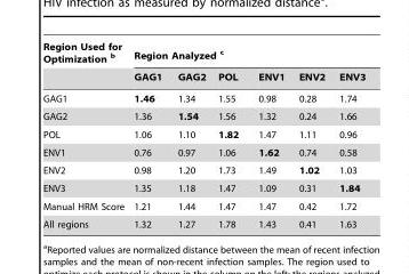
<table><thead><tr><td rowspan="2">Region Used for Optimization b</td><td colspan="6">Region Analyzed c</td></tr><tr><td>GAG1</td><td>GAG2</td><td>POL</td><td>ENV1</td><td>ENV2</td><td>ENV3</td></tr></thead><tbody><tr><td>GAG1</td><td>1.46</td><td>1.34</td><td>1.55</td><td>0.98</td><td>0.28</td><td>1.74</td></tr><tr><td>GAG2</td><td>1.36</td><td>1.54</td><td>1.56</td><td>1.32</td><td>0.24</td><td>1.66</td></tr><tr><td>POL</td><td>1.06</td><td>1.10</td><td>1.82</td><td>1.47</td><td>1.11</td><td>0.96</td></tr><tr><td>ENV1</td><td>0.76</td><td>0.97</td><td>1.06</td><td>1.62</td><td>0.74</td><td>0.58</td></tr><tr><td>ENV2</td><td>0.98</td><td>1.20</td><td>1.73</td><td>1.49</td><td>1.02</td><td>1.03</td></tr><tr><td>ENV3</td><td>1.35</td><td>1.18</td><td>1.47</td><td>1.09</td><td>0.31</td><td>1.84</td></tr><tr><td>Manual HRM Score</td><td>1.21</td><td>1.44</td><td>1.47</td><td>1.47</td><td>0.42</td><td>1.72</td></tr><tr><td>All regions</td><td>1.32</td><td>1.27</td><td>1.78</td><td>1.43</td><td>0.41</td><td>1.63</td></tr></tbody></table>